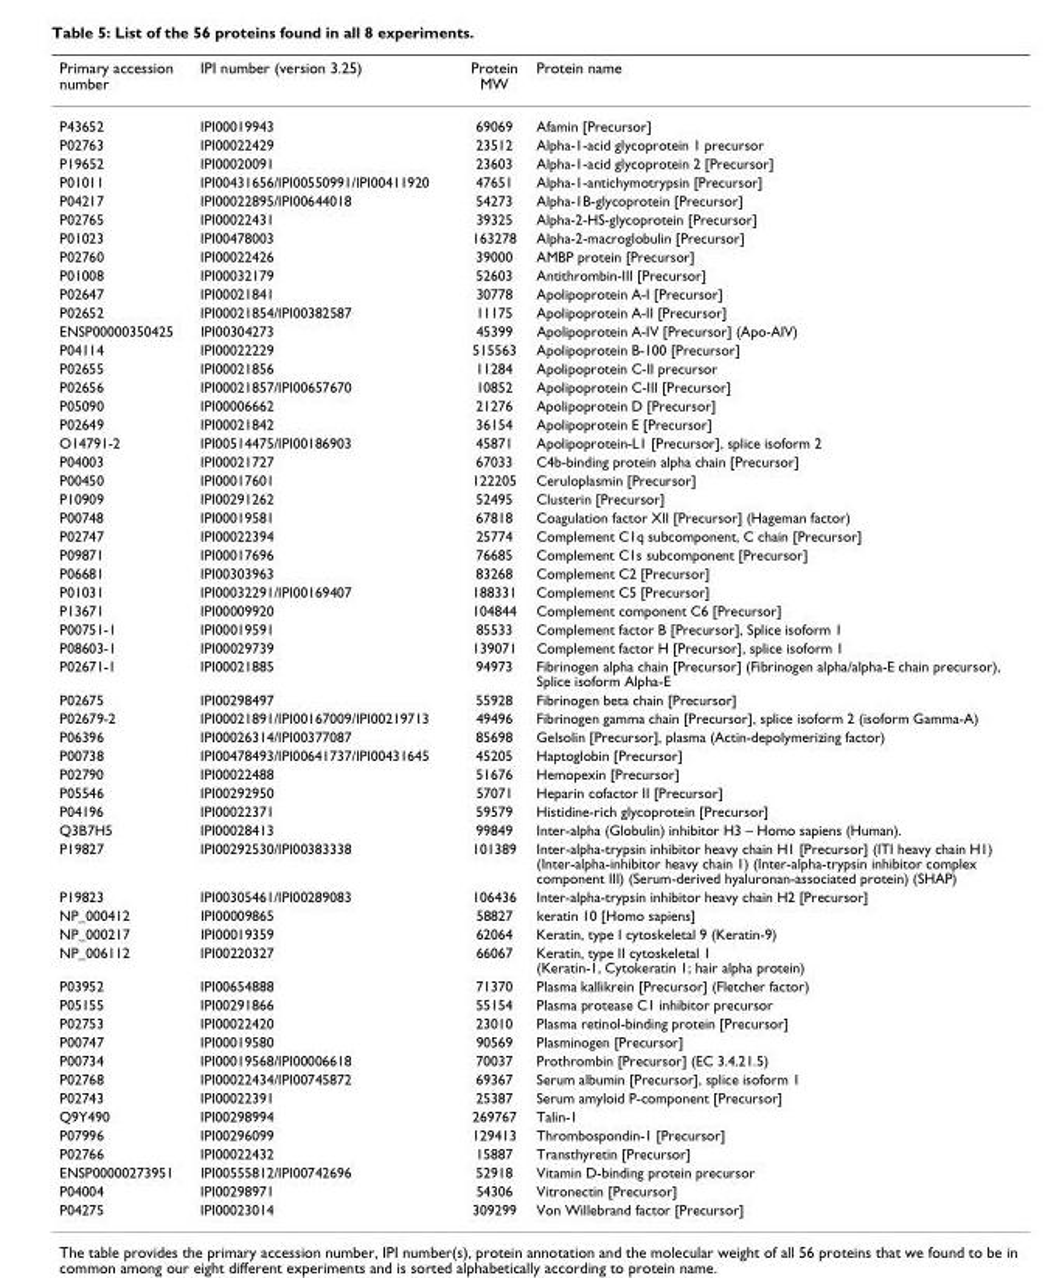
<table><thead><tr><td>Primary accession number</td><td>IPI number (version 3.25)</td><td>Protein MW</td><td>Protein name</td></tr></thead><tbody><tr><td>P43652</td><td>IPI00019943</td><td>69069</td><td>Afamin [Precursor]</td></tr><tr><td>P02763</td><td>IPI00022429</td><td>23512</td><td>Alpha-1-acid glycoprotein 1 precursor</td></tr><tr><td>P19652</td><td>IPI00020091</td><td>23603</td><td>Alpha-1-acid glycoprotein 2 [Precursor]</td></tr><tr><td>P01011</td><td>IPI00431656/IPI00550991/IPI00411920</td><td>47651</td><td>Alpha-1-antichymotrypsin [Precursor]</td></tr><tr><td>P04217</td><td>IPI00022895/IPI00644018</td><td>54273</td><td>Alpha-1B-glycoprotein [Precursor]</td></tr><tr><td>P02765</td><td>IPI00022431</td><td>39325</td><td>Alpha-2-HS-glycoprotein [Precursor]</td></tr><tr><td>P01023</td><td>IPI00478003</td><td>163278</td><td>Alpha-2-macroglobulin [Precursor]</td></tr><tr><td>P02760</td><td>IPI00022426</td><td>39000</td><td>AMBP protein [Precursor]</td></tr><tr><td>P01008</td><td>IPI00032179</td><td>52603</td><td>Antithrombin-III [Precursor]</td></tr><tr><td>P02647</td><td>IPI00021841</td><td>30778</td><td>Apolipoprotein A-I [Precursor]</td></tr><tr><td>P02652</td><td>IPI00021854/IPI00382587</td><td>11175</td><td>Apolipoprotein A-II [Precursor]</td></tr><tr><td>ENSP00000350425</td><td>IPI00304273</td><td>45399</td><td>Apolipoprotein A-IV [Precursor] (Apo-AIV)</td></tr><tr><td>P04114</td><td>IPI00022229</td><td>515563</td><td>Apolipoprotein B-100 [Precursor]</td></tr><tr><td>P02655</td><td>IPI00021856</td><td>11284</td><td>Apolipoprotein C-II precursor</td></tr><tr><td>P02656</td><td>IPI00021857/IPI00657670</td><td>10852</td><td>Apolipoprotein C-III [Precursor]</td></tr><tr><td>P05090</td><td>IPI00006662</td><td>21276</td><td>Apolipoprotein D [Precursor]</td></tr><tr><td>P02649</td><td>IPI00021842</td><td>36154</td><td>Apolipoprotein E [Precursor]</td></tr><tr><td>O14791-2</td><td>IPI00514475/IPI00186903</td><td>45871</td><td>Apolipoprotein-L1 [Precursor], splice isoform 2</td></tr><tr><td>P04003</td><td>IPI00021727</td><td>67033</td><td>C4b-binding protein alpha chain [Precursor]</td></tr><tr><td>P00450</td><td>IPI00017601</td><td>122205</td><td>Ceruloplasmin [Precursor]</td></tr><tr><td>P10909</td><td>IPI00291262</td><td>52495</td><td>Clusterin [Precursor]</td></tr><tr><td>P00748</td><td>IPI00019581</td><td>67818</td><td>Coagulation factor XII [Precursor] (Hageman factor)</td></tr><tr><td>P02747</td><td>IPI00022394</td><td>25774</td><td>Complement C1q subcomponent, C chain [Precursor]</td></tr><tr><td>P09871</td><td>IPI00017696</td><td>76685</td><td>Complement C1s subcomponent [Precursor]</td></tr><tr><td>P06681</td><td>IPI00303963</td><td>83268</td><td>Complement C2 [Precursor]</td></tr><tr><td>P01031</td><td>IPI00032291/IPI00169407</td><td>188331</td><td>Complement C5 [Precursor]</td></tr><tr><td>P13671</td><td>IPI00009920</td><td>104844</td><td>Complement component C6 [Precursor]</td></tr><tr><td>P00751-1</td><td>IPI00019591</td><td>85533</td><td>Complement factor B [Precursor], Splice isoform 1</td></tr><tr><td>P08603-1</td><td>IPI00029739</td><td>139071</td><td>Complement factor H [Precursor], splice isoform 1</td></tr><tr><td>P02671-1</td><td>IPI00021885</td><td>94973</td><td>Fibrinogen alpha chain [Precursor] (Fibrinogen alpha/alpha-E chain precursor), Splice isoform Alpha-E</td></tr><tr><td>P02675</td><td>IPI00298497</td><td>55928</td><td>Fibrinogen beta chain [Precursor]</td></tr><tr><td>P02679-2</td><td>IPI00021891/IPI00167009/IPI00219713</td><td>49496</td><td>Fibrinogen gamma chain [Precursor], splice isoform 2 (isoform Gamma-A)</td></tr><tr><td>P06396</td><td>IPI00026314/IPI00377087</td><td>85698</td><td>Gelsolin [Precursor], plasma (Actin-depolymerizing factor)</td></tr><tr><td>P00738</td><td>IPI00478493/IPI00641737/IPI00431645</td><td>45205</td><td>Haptoglobin [Precursor]</td></tr><tr><td>P02790</td><td>IPI00022488</td><td>51676</td><td>Hemopexin [Precursor]</td></tr><tr><td>P05546</td><td>IPI00292950</td><td>57071</td><td>Heparin cofactor II [Precursor]</td></tr><tr><td>P04196</td><td>IPI00022371</td><td>59579</td><td>Histidine-rich glycoprotein [Precursor]</td></tr><tr><td>Q3B7H5</td><td>IPI00028413</td><td>99849</td><td>Inter-alpha (Globulin) inhibitor H3 – Homo sapiens (Human).</td></tr><tr><td>P19827</td><td>IPI00292530/IPI00383338</td><td>101389</td><td>Inter-alpha-trypsin inhibitor heavy chain H1 [Precursor] (ITI heavy chain H1) (Inter-alpha-inhibitor heavy chain 1) (Inter-alpha-trypsin inhibitor complex component III) (Serum-derived hyaluronan-associated protein) (SHAP)</td></tr><tr><td>P19823</td><td>IPI00305461/IPI00289083</td><td>106436</td><td>Inter-alpha-trypsin inhibitor heavy chain H2 [Precursor]</td></tr><tr><td>NP_000412</td><td>IPI00009865</td><td>58827</td><td>keratin 10 [Homo sapiens]</td></tr><tr><td>NP_000217</td><td>IPI00019359</td><td>62064</td><td>Keratin, type I cytoskeletal 9 (Keratin-9)</td></tr><tr><td>NP_006112</td><td>IPI00220327</td><td>66067</td><td>Keratin, type II cytoskeletal 1 (Keratin-1, Cytokeratin 1; hair alpha protein)</td></tr><tr><td>P03952</td><td>IPI00654888</td><td>71370</td><td>Plasma kallikrein [Precursor] (Fletcher factor)</td></tr><tr><td>P05155</td><td>IPI00291866</td><td>55154</td><td>Plasma protease C1 inhibitor precursor</td></tr><tr><td>P02753</td><td>IPI00022420</td><td>23010</td><td>Plasma retinol-binding protein [Precursor]</td></tr><tr><td>P00747</td><td>IPI00019580</td><td>90569</td><td>Plasminogen [Precursor]</td></tr><tr><td>P00734</td><td>IPI00019568/IPI00006618</td><td>70037</td><td>Prothrombin [Precursor] (EC 3.4.21.5)</td></tr><tr><td>P02768</td><td>IPI00022434/IPI00745872</td><td>69367</td><td>Serum albumin [Precursor], splice isoform 1</td></tr><tr><td>P02743</td><td>IPI00022391</td><td>25387</td><td>Serum amyloid P-component [Precursor]</td></tr><tr><td>Q9Y490</td><td>IPI00298994</td><td>269767</td><td>Talin-1</td></tr><tr><td>P07996</td><td>IPI00296099</td><td>129413</td><td>Thrombospondin-1 [Precursor]</td></tr><tr><td>P02766</td><td>IPI00022432</td><td>15887</td><td>Transthyretin [Precursor]</td></tr><tr><td>ENSP00000273951</td><td>IPI00555812/IPI00742696</td><td>52918</td><td>Vitamin D-binding protein precursor</td></tr><tr><td>P04004</td><td>IPI00298971</td><td>54306</td><td>Vitronectin [Precursor]</td></tr><tr><td>P04275</td><td>IPI00023014</td><td>309299</td><td>Von Willebrand factor [Precursor]</td></tr></tbody></table>